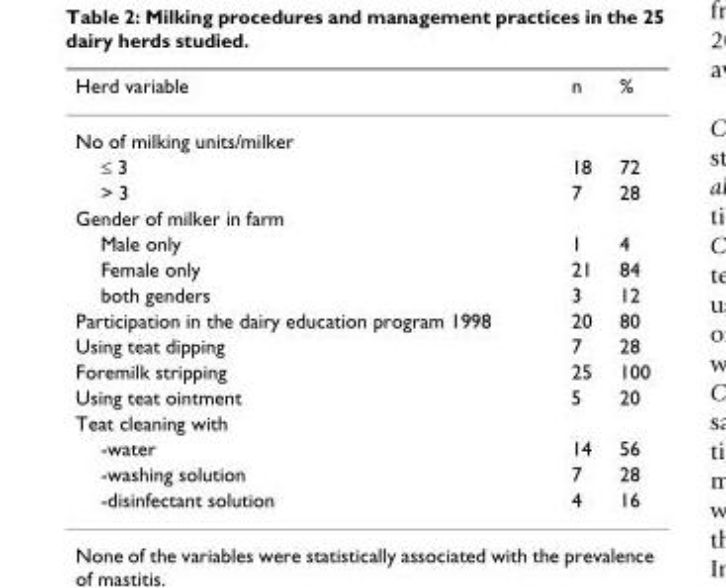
<table><thead><tr><td>Herd variable</td><td>n</td><td>%</td></tr></thead><tbody><tr><td colspan="3">No of milking units/milker</td></tr><tr><td>≤ 3</td><td>18</td><td>72</td></tr><tr><td>&gt; 3</td><td>7</td><td>28</td></tr><tr><td colspan="3">Gender of milker in farm</td></tr><tr><td>Male only</td><td>1</td><td>4</td></tr><tr><td>Female only</td><td>21</td><td>84</td></tr><tr><td>both genders</td><td>3</td><td>12</td></tr><tr><td>Participation in the dairy education program 1998</td><td>20</td><td>80</td></tr><tr><td>Using teat dipping</td><td>7</td><td>28</td></tr><tr><td>Foremilk stripping</td><td>25</td><td>100</td></tr><tr><td>Using teat ointment</td><td>5</td><td>20</td></tr><tr><td colspan="3">Teat cleaning with</td></tr><tr><td>-water</td><td>14</td><td>56</td></tr><tr><td>-washing solution</td><td>7</td><td>28</td></tr><tr><td>-disinfectant solution</td><td>4</td><td>16</td></tr></tbody></table>